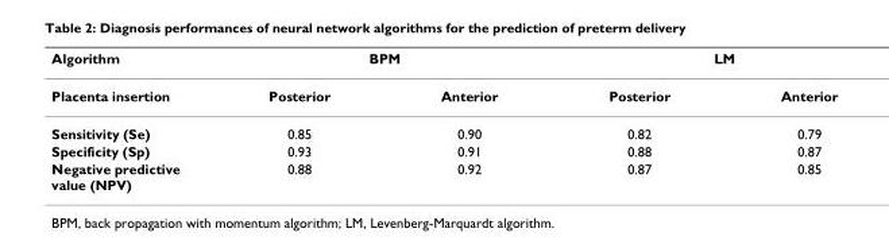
<table><thead><tr><td rowspan="2">Algorithm Placenta insertion</td><td colspan="2">BPM</td><td colspan="2">LM</td></tr><tr><td>Posterior</td><td>Anterior</td><td>Posterior</td><td>Anterior</td></tr></thead><tbody><tr><td>Sensitivity (Se)</td><td>0.85</td><td>0.90</td><td>0.82</td><td>0.79</td></tr><tr><td>Specificity (Sp)</td><td>0.93</td><td>0.91</td><td>0.88</td><td>0.87</td></tr><tr><td>Negative predictive value (NPV)</td><td>0.88</td><td>0.92</td><td>0.87</td><td>0.85</td></tr></tbody></table>